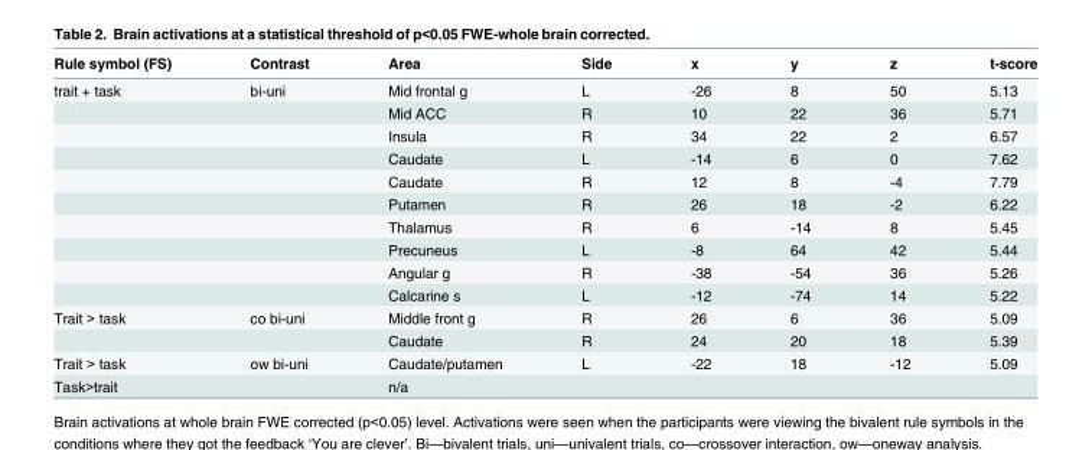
<table><thead><tr><td>Rule symbol (FS)</td><td>Contrast</td><td>Area</td><td>Side</td><td>x</td><td>y</td><td>z</td><td>t-score</td></tr></thead><tbody><tr><td rowspan="10">trait + task</td><td>bi-uni</td><td>Mid frontal g</td><td>L</td><td>-26</td><td>8</td><td>50</td><td>5.13</td></tr><tr><td></td><td>Mid ACC</td><td>R</td><td>10</td><td>22</td><td>36</td><td>5.71</td></tr><tr><td></td><td>Insula</td><td>R</td><td>34</td><td>22</td><td>2</td><td>6.57</td></tr><tr><td></td><td>Caudate</td><td>L</td><td>-14</td><td>6</td><td>0</td><td>7.62</td></tr><tr><td></td><td>Caudate</td><td>R</td><td>12</td><td>8</td><td>-4</td><td>7.79</td></tr><tr><td></td><td>Putamen</td><td>R</td><td>26</td><td>18</td><td>-2</td><td>6.22</td></tr><tr><td></td><td>Thalamus</td><td>R</td><td>6</td><td>-14</td><td>8</td><td>5.45</td></tr><tr><td></td><td>Precuneus</td><td>L</td><td>-8</td><td>64</td><td>42</td><td>5.44</td></tr><tr><td></td><td>Angular g</td><td>R</td><td>-38</td><td>-54</td><td>36</td><td>5.26</td></tr><tr><td></td><td>Calcarine s</td><td>L</td><td>-12</td><td>-74</td><td>14</td><td>5.22</td></tr><tr><td rowspan="2">Trait &gt; task</td><td>co bi-uni</td><td>Middle front g</td><td>R</td><td>26</td><td>6</td><td>36</td><td>5.09</td></tr><tr><td></td><td>Caudate</td><td>R</td><td>24</td><td>20</td><td>18</td><td>5.39</td></tr><tr><td>Trait &gt; task</td><td>ow bi-uni</td><td>Caudate/putamen</td><td>L</td><td>-22</td><td>18</td><td>-12</td><td>5.09</td></tr><tr><td>Task&gt;trait</td><td></td><td>n/a</td><td></td><td></td><td></td><td></td><td></td></tr></tbody></table>